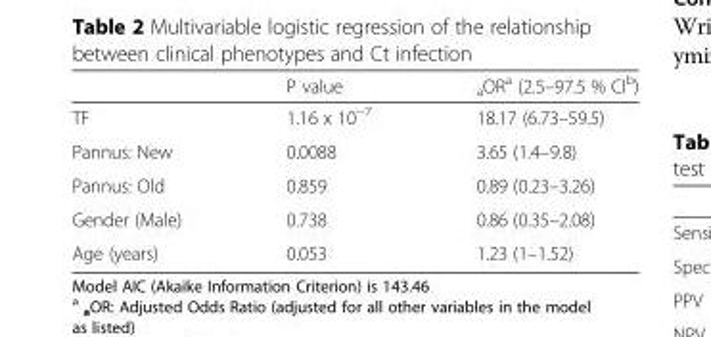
<table><thead><tr><td></td><td>P value</td><td><sub>a</sub>OR<sup>a</sup> (2.5–97.5 % CI<sup>b</sup>)</td></tr></thead><tbody><tr><td>TF</td><td>1.16 x 10<sup>−7</sup></td><td>18.17 (6.73–59.5)</td></tr><tr><td>Pannus: New</td><td>0.0088</td><td>3.65 (1.4–9.8)</td></tr><tr><td>Pannus: Old</td><td>0.859</td><td>0.89 (0.23–3.26)</td></tr><tr><td>Gender (Male)</td><td>0.738</td><td>0.86 (0.35–2.08)</td></tr><tr><td>Age (years)</td><td>0.053</td><td>1.23 (1–1.52)</td></tr></tbody></table>